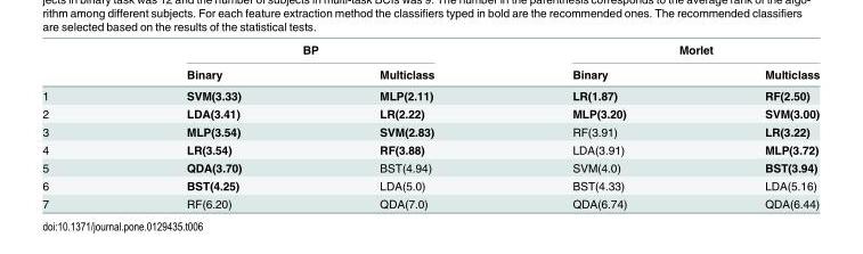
<table><thead><tr><td rowspan="2"></td><td colspan="2">BP</td><td colspan="2">Morlet</td></tr><tr><td>Binary</td><td>Multiclass</td><td>Binary</td><td>Multiclass</td></tr></thead><tbody><tr><td>1</td><td>SVM(3.33)</td><td>MLP(2.11)</td><td>LR(1.87)</td><td>RF(2.50)</td></tr><tr><td>2</td><td>LDA(3.41)</td><td>LR(2.22)</td><td>MLP(3.20)</td><td>SVM(3.00)</td></tr><tr><td>3</td><td>MLP(3.54)</td><td>SVM(2.83)</td><td>RF(3.91)</td><td>LR(3.22)</td></tr><tr><td>4</td><td>LR(3.54)</td><td>RF(3.88)</td><td>LDA(3.91)</td><td>MLP(3.72)</td></tr><tr><td>5</td><td>QDA(3.70)</td><td>BST(4.94)</td><td>SVM(4.0)</td><td>BST(3.94)</td></tr><tr><td>6</td><td>BST(4.25)</td><td>LDA(5.0)</td><td>BST(4.33)</td><td>LDA(5.16)</td></tr><tr><td>7</td><td>RF(6.20)</td><td>QDA(7.0)</td><td>QDA(6.74)</td><td>QDA(6.44)</td></tr></tbody></table>